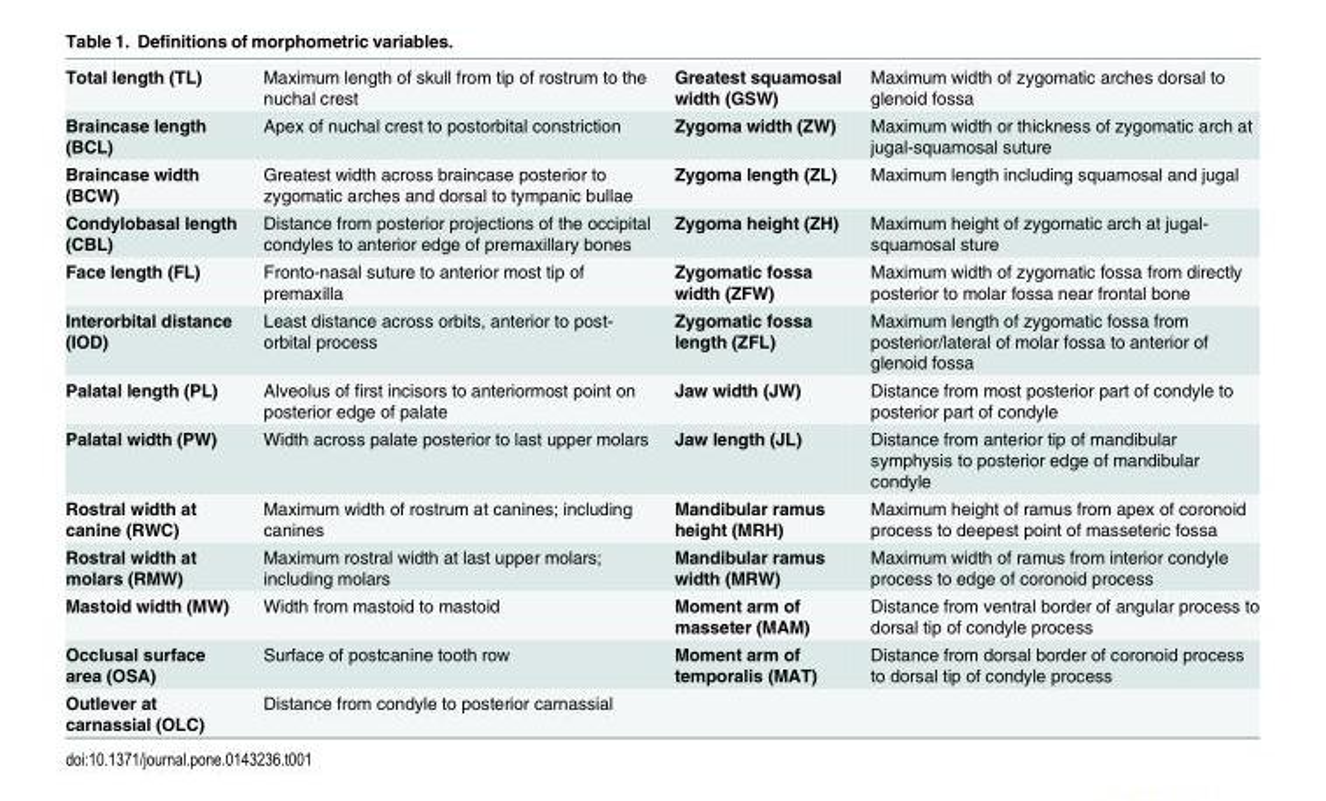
<table><tbody><tr><td>Total length (TL)</td><td>Maximum length of skull from tip of rostrum to the nuchal crest</td><td>Greatest squamosal width (GSW)</td><td>Maximum width of zygomatic arches dorsal to glenoid fossa</td></tr><tr><td>Braincase length (BCL)</td><td>Apex of nuchal crest to postorbital constriction</td><td>Zygoma width (ZW)</td><td>Maximum width or thickness of zygomatic arch at jugal-squamosal suture</td></tr><tr><td>Braincase width (BCW)</td><td>Greatest width across braincase posterior to zygomatic arches and dorsal to tympanic bullae</td><td>Zygoma length (ZL)</td><td>Maximum length including squamosal and jugal</td></tr><tr><td>Condylobasal length (CBL)</td><td>Distance from posterior projections of the occipital condyles to anterior edge of premaxillary bones</td><td>Zygoma height (ZH)</td><td>Maximum height of zygomatic arch at jugal- squamosal sture</td></tr><tr><td>Face length (FL)</td><td>Fronto-nasal suture to anterior most tip of premaxilla</td><td>Zygomatic fossa width (ZFW)</td><td>Maximum width of zygomatic fossa from directly posterior to molar fossa near frontal bone</td></tr><tr><td>Interorbital distance (IOD)</td><td>Least distance across orbits, anterior to post- orbital process</td><td>Zygomatic fossa length (ZFL)</td><td>Maximum length of zygomatic fossa from posterior/lateral of molar fossa to anterior of glenoid fossa</td></tr><tr><td>Palatal length (PL)</td><td>Alveolus of first incisors to anteriormost point on posterior edge of palate</td><td>Jaw width (JW)</td><td>Distance from most posterior part of condyle to posterior part of condyle</td></tr><tr><td>Palatal width (PW)</td><td>Width across palate posterior to last upper molars</td><td>Jaw length (JL)</td><td>Distance from anterior tip of mandibular symphysis to posterior edge of mandibular condyle</td></tr><tr><td>Rostral width at canine (RWC)</td><td>Maximum width of rostrum at canines; including canines</td><td>Mandibular ramus height (MRH)</td><td>Maximum height of ramus from apex of coronoid process to deepest point of masseteric fossa</td></tr><tr><td>Rostral width at molars (RMW)</td><td>Maximum rostral width at last upper molars; including molars</td><td>Mandibular ramus width (MRW)</td><td>Maximum width of ramus from interior condyle process to edge of coronoid process</td></tr><tr><td>Mastoid width (MW)</td><td>Width from mastoid to mastoid</td><td>Moment arm of masseter (MAM)</td><td>Distance from ventral border of angular process to dorsal tip of condyle process</td></tr><tr><td>Occlusal surface area (OSA)</td><td>Surface of postcanine tooth row</td><td>Moment arm of temporalis (MAT)</td><td>Distance from dorsal border of coronoid process to dorsal tip of condyle process</td></tr><tr><td>Outlever at carnassial (OLC)</td><td>Distance from condyle to posterior carnassial</td><td></td><td></td></tr></tbody></table>